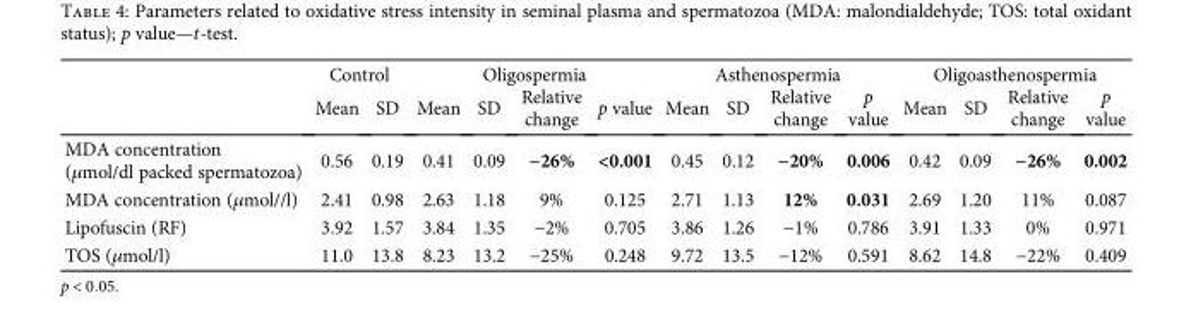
<table><thead><tr><td rowspan="2"></td><td colspan="2">Control</td><td colspan="4">Oligospermia</td><td colspan="4">Asthenospermia</td><td colspan="4">Oligoasthenospermia</td></tr><tr><td>Mean</td><td>SD</td><td>Mean</td><td>SD</td><td>Relative change</td><td>p value</td><td>Mean</td><td>SD</td><td>Relative change</td><td>p value</td><td>Mean</td><td>SD</td><td>Relative change</td><td>p value</td></tr></thead><tbody><tr><td>MDA concentration (μmol/dl packed spermatozoa)</td><td>0.56</td><td>0.19</td><td>0.41</td><td>0.09</td><td>−26%</td><td>&lt;0.001</td><td>0.45</td><td>0.12</td><td>−20%</td><td>0.006</td><td>0.42</td><td>0.09</td><td>−26%</td><td>0.002</td></tr><tr><td>MDA concentration (μmol//l)</td><td>2.41</td><td>0.98</td><td>2.63</td><td>1.18</td><td>9%</td><td>0.125</td><td>2.71</td><td>1.13</td><td>12%</td><td>0.031</td><td>2.69</td><td>1.20</td><td>11%</td><td>0.087</td></tr><tr><td>Lipofuscin (RF)</td><td>3.92</td><td>1.57</td><td>3.84</td><td>1.35</td><td>−2%</td><td>0.705</td><td>3.86</td><td>1.26</td><td>−1%</td><td>0.786</td><td>3.91</td><td>1.33</td><td>0%</td><td>0.971</td></tr><tr><td>TOS (μmol/l)</td><td>11.0</td><td>13.8</td><td>8.23</td><td>13.2</td><td>−25%</td><td>0.248</td><td>9.72</td><td>13.5</td><td>−12%</td><td>0.591</td><td>8.62</td><td>14.8</td><td>−22%</td><td>0.409</td></tr></tbody></table>